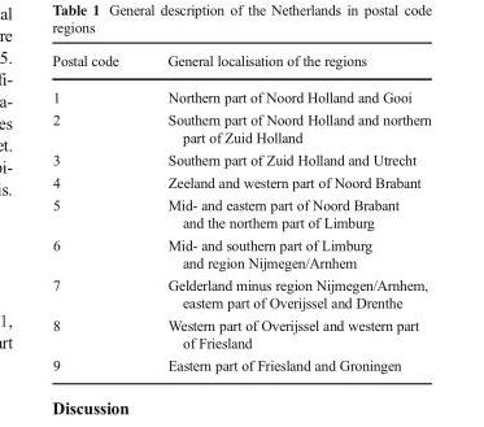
<table><thead><tr><td>Postal code</td><td>General localisation of the regions</td></tr></thead><tbody><tr><td>1</td><td>Northern part of Noord Holland and Gooi</td></tr><tr><td>2</td><td>Southern part of Noord Holland and northern part of Zuid Holland</td></tr><tr><td>3</td><td>Southern part of Zuid Holland and Utrecht</td></tr><tr><td>4</td><td>Zeeland and western part of Noord Brabant</td></tr><tr><td>5</td><td>Mid- and eastern part of Noord Brabant and the northern part of Limburg</td></tr><tr><td>6</td><td>Mid- and southern part of Limburg and region Nijmegen/Arnhem</td></tr><tr><td>7</td><td>Gelderland minus region Nijmegen/Arnhem, eastern part of Overijssel and Drenthe</td></tr><tr><td>8</td><td>Western part of Overijssel and western part of Friesland</td></tr><tr><td>9</td><td>Eastern part of Friesland and Groningen</td></tr></tbody></table>